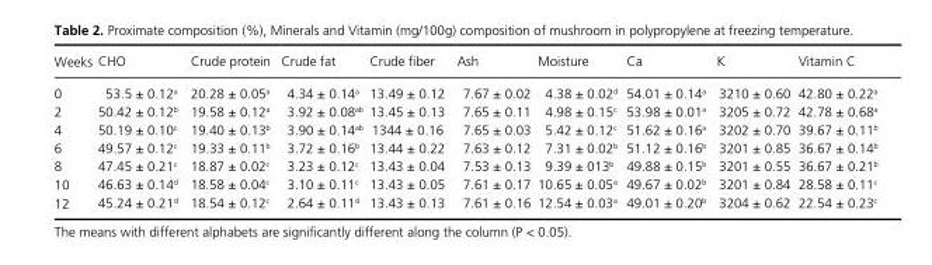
<table><thead><tr><td>Weeks</td><td>CHO</td><td>Crude protein</td><td>Crude fat</td><td>Crude fi ber</td><td>Ash</td><td>Moisture</td><td>Ca</td><td>K</td><td>Vitamin C</td></tr></thead><tbody><tr><td>0</td><td>53.5 ± 0.12 <sup>a</sup></td><td>20.28 ± 0.05 <sup>a</sup></td><td>4.34 ± 0.14 <sup>a</sup></td><td>13.49 ± 0.12</td><td>7.67 ± 0.02</td><td>4.38 ± 0.02 <sup>d</sup></td><td>54.01 ± 0.14 <sup>a</sup></td><td>3210 ± 0.60</td><td>42.80 ± 0.22 <sup>a</sup></td></tr><tr><td>2</td><td>50.42 ± 0.12 <sup>b</sup></td><td>19.58 ± 0.12 <sup>a</sup></td><td>3.92 ± 0.08 <sup>ab</sup></td><td>13.45 ± 0.13</td><td>7.65 ± 0.11</td><td>4.98 ± 0.15 <sup>c</sup></td><td>53.98 ± 0.01 <sup>a</sup></td><td>3205 ± 0.72</td><td>42.78 ± 0.68 <sup>a</sup></td></tr><tr><td>4</td><td>50.19 ± 0.10 <sup>c</sup></td><td>19.40 ± 0.13 <sup>b</sup></td><td>3.90 ± 0.14 <sup>ab</sup></td><td>1344 ± 0.16</td><td>7.65 ± 0.03</td><td>5.42 ± 0.12 <sup>c</sup></td><td>51.62 ± 0.16 <sup>a</sup></td><td>3202 ± 0.70</td><td>39.67 ± 0.11 <sup>b</sup></td></tr><tr><td>6</td><td>49.57 ± 0.12 <sup>c</sup></td><td>19.33 ± 0.11 <sup>b</sup></td><td>3.72 ± 0.16 <sup>b</sup></td><td>13.44 ± 0.22</td><td>7.63 ± 0.12</td><td>7.31 ± 0.02 <sup>b</sup></td><td>51.12 ± 0.16 <sup>b</sup></td><td>3201 ± 0.85</td><td>36.67 ± 0.14 <sup>b</sup></td></tr><tr><td>8</td><td>47.45 ± 0.21 <sup>c</sup></td><td>18.87 ± 0.02 <sup>c</sup></td><td>3.23 ± 0.12 <sup>c</sup></td><td>13.43 ± 0.04</td><td>7.53 ± 0.13</td><td>9.39 ± 013 <sup>b</sup></td><td>49.88 ± 0.15 <sup>b</sup></td><td>3201 ± 0.55</td><td>36.67 ± 0.21 <sup>b</sup></td></tr><tr><td>10</td><td>46.63 ± 0.14 <sup>d</sup></td><td>18.58 ± 0.04 <sup>c</sup></td><td>3.10 ± 0.11 <sup>c</sup></td><td>13.43 ± 0.05</td><td>7.61 ± 0.17</td><td>10.65 ± 0.05 <sup>a</sup></td><td>49.67 ± 0.02 <sup>b</sup></td><td>3201 ± 0.84</td><td>28.58 ± 0.11 <sup>c</sup></td></tr><tr><td>12</td><td>45.24 ± 0.21 <sup>d</sup></td><td>18.54 ± 0.12 <sup>c</sup></td><td>2.64 ± 0.11 <sup>d</sup></td><td>13.43 ± 0.13</td><td>7.61 ± 0.16</td><td>12.54 ± 0.03 <sup>a</sup></td><td>49.01 ± 0.20 <sup>b</sup></td><td>3204 ± 0.62</td><td>22.54 ± 0.23 <sup>c</sup></td></tr></tbody></table>